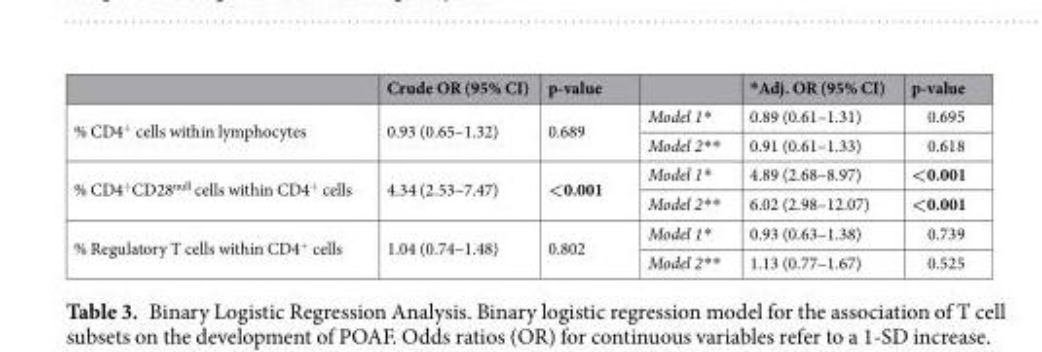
<table><thead><tr><td></td><td>Crude OR (95% CI)</td><td>p-value</td><td></td><td>*Adj. OR (95% CI)</td><td>p-value</td></tr></thead><tbody><tr><td rowspan="2">% CD4<sup>+</sup> cells within lymphocytes</td><td rowspan="2">0.93 (0.65–1.32)</td><td rowspan="2">0.689</td><td>Model 1*</td><td>0.89 (0.61–1.31)</td><td>0.695</td></tr><tr><td>Model 2**</td><td>0.91 (0.61–1.33)</td><td>0.618</td></tr><tr><td rowspan="2">% CD4<sup>+</sup>CD28<sup>null</sup> cells within CD4<sup>+</sup> cells</td><td rowspan="2">4.34 (2.53–7.47)</td><td rowspan="2">&lt;0.001</td><td>Model 1*</td><td>4.89 (2.68–8.97)</td><td>&lt;0.001</td></tr><tr><td>Model 2**</td><td>6.02 (2.98–12.07)</td><td>&lt;0.001</td></tr><tr><td rowspan="2">% Regulatory T cells within CD4<sup>+</sup> cells</td><td rowspan="2">1.04 (0.74–1.48)</td><td rowspan="2">0.802</td><td>Model 1*</td><td>0.93 (0.63–1.38)</td><td>0.739</td></tr><tr><td>Model 2**</td><td>1.13 (0.77–1.67)</td><td>0.525</td></tr></tbody></table>